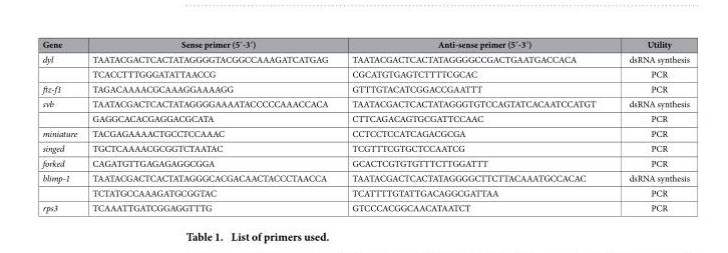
<table><thead><tr><td>Gene</td><td>Sense primer (5′-3′)</td><td>Anti-sense primer (5′-3′)</td><td>Utility</td></tr></thead><tbody><tr><td rowspan="2">dyl</td><td>TAATACGACTCACTATAGGGGTACGGCCAAAGATCATGAG</td><td>TAATACGACTCACTATAGGGGCCGACTGAATGACCACA</td><td>dsRNA synthesis</td></tr><tr><td>TCACCTTTGGGATATTAACCG</td><td>CGCATGTGAGTCTTTTCGCAC</td><td>PCR</td></tr><tr><td>ftz-f1</td><td>TAGACAAAACGCAAAGGAAAAGG</td><td>GTTTGTACATCGGACCGAATTT</td><td>PCR</td></tr><tr><td rowspan="2">svb</td><td>TAATACGACTCACTATAGGGGAAAATACCCCCAAACCACA</td><td>TAATACGACTCACTATAGGGTGTCCAGTATCACAATCCATGT</td><td>dsRNA synthesis</td></tr><tr><td>GAGGCACACGAGGACGCATA</td><td>CTTCAGACAGTGCGATTCCAAC</td><td>PCR</td></tr><tr><td>miniature</td><td>TACGAGAAAACTGCCTCCAAAC</td><td>CCTCCTCCATCAGACGCGA</td><td>PCR</td></tr><tr><td>singed</td><td>TGCTCAAAACGCGGTCTAATAC</td><td>TCGTTTCGTGCTCCAATCG</td><td>PCR</td></tr><tr><td>forked</td><td>CAGATGTTGAGAGAGGCGGA</td><td>GCACTCGTGTGTTTCTTGGATTT</td><td>PCR</td></tr><tr><td rowspan="2">blimp-1</td><td>TAATACGACTCACTATAGGGCACGACAACTACCCTAACCA</td><td>TAATACGACTCACTATAGGGGCTTCTTACAAATGCCACAC</td><td>dsRNA synthesis</td></tr><tr><td>TCTATGCCAAAGATGCGGTAC</td><td>TCATTTTGTATTGACAGGCGATTAA</td><td>PCR</td></tr><tr><td>rps3</td><td>TCAAATTGATCGGAGGTTTG</td><td>GTCCCACGGCAACATAATCT</td><td>PCR</td></tr></tbody></table>